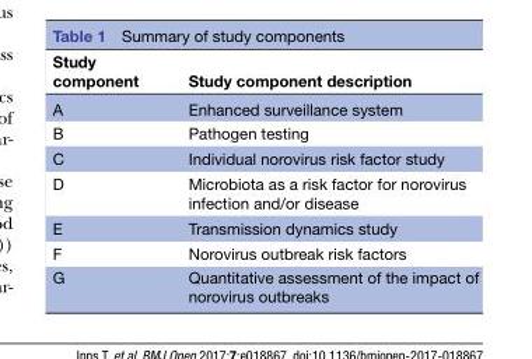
<table><thead><tr><td>Study component</td><td>Study component description</td></tr></thead><tbody><tr><td>A</td><td>Enhanced surveillance system</td></tr><tr><td>B</td><td>Pathogen testing</td></tr><tr><td>C</td><td>Individual norovirus risk factor study</td></tr><tr><td>D</td><td>Microbiota as a risk factor for norovirus infection and/or disease</td></tr><tr><td>E</td><td>Transmission dynamics study</td></tr><tr><td>F</td><td>Norovirus outbreak risk factors</td></tr><tr><td>G</td><td>Quantitative assessment of the impact of norovirus outbreaks</td></tr></tbody></table>